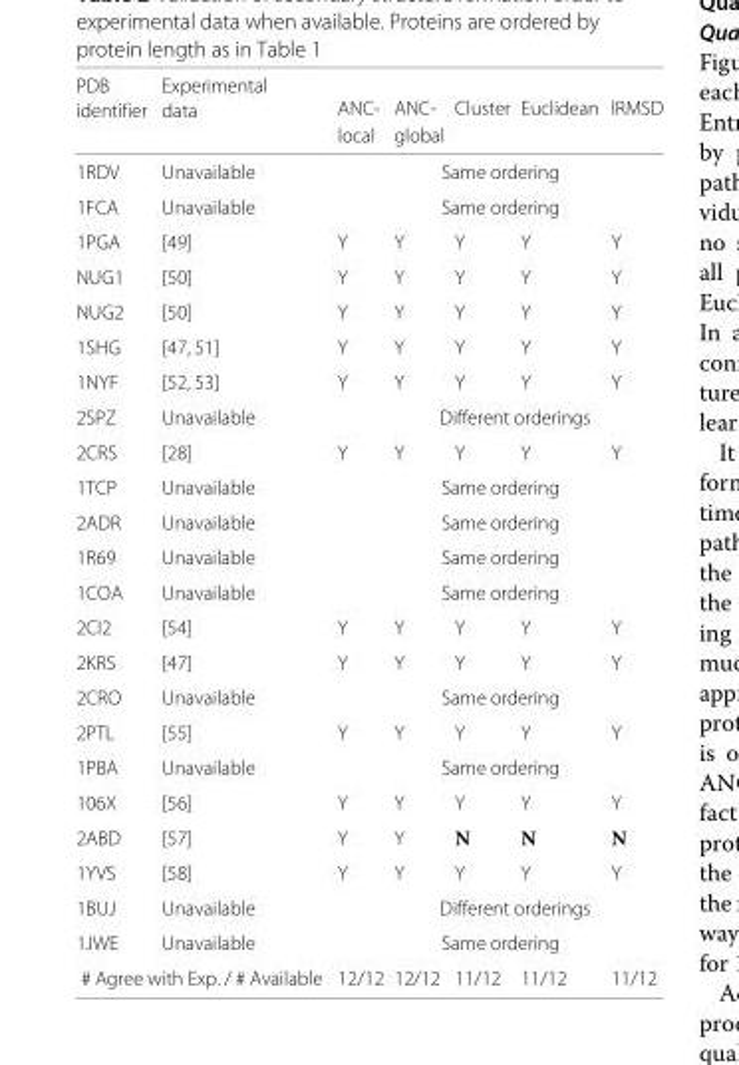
<table><thead><tr><td rowspan="3">PDB identifier</td><td rowspan="3">Experimental data</td><td rowspan="3">ANC- local</td><td rowspan="3">ANC- global</td><td rowspan="3">Cluster</td><td rowspan="3">Euclidean</td><td rowspan="3">lRMSD</td></tr><tr></tr><tr></tr></thead><tbody><tr><td>1RDV</td><td>Unavailable</td><td colspan="4">Same ordering</td><td></td></tr><tr><td>1FCA</td><td>Unavailable</td><td colspan="4">Same ordering</td><td></td></tr><tr><td>1PGA</td><td>[49]</td><td>Y</td><td>Y</td><td>Y</td><td>Y</td><td>Y</td></tr><tr><td>NUG1</td><td>[50]</td><td>Y</td><td>Y</td><td>Y</td><td>Y</td><td>Y</td></tr><tr><td>NUG2</td><td>[50]</td><td>Y</td><td>Y</td><td>Y</td><td>Y</td><td>Y</td></tr><tr><td>1SHG</td><td>[47, 51]</td><td>Y</td><td>Y</td><td>Y</td><td>Y</td><td>Y</td></tr><tr><td>1NYF</td><td>[52, 53]</td><td>Y</td><td>Y</td><td>Y</td><td>Y</td><td>Y</td></tr><tr><td>2SPZ</td><td>Unavailable</td><td></td><td colspan="3">Different orderings</td><td></td></tr><tr><td>2CRS</td><td>[28]</td><td>Y</td><td>Y</td><td>Y</td><td>Y</td><td>Y</td></tr><tr><td>1TCP</td><td>Unavailable</td><td colspan="4">Same ordering</td><td></td></tr><tr><td>2ADR</td><td>Unavailable</td><td colspan="4">Same ordering</td><td></td></tr><tr><td>1R69</td><td>Unavailable</td><td colspan="4">Same ordering</td><td></td></tr><tr><td>1COA</td><td>Unavailable</td><td colspan="4">Same ordering</td><td></td></tr><tr><td>2CI2</td><td>[54]</td><td>Y</td><td>Y</td><td>Y</td><td>Y</td><td>Y</td></tr><tr><td>2KRS</td><td>[47]</td><td>Y</td><td>Y</td><td>Y</td><td>Y</td><td>Y</td></tr><tr><td>2CRO</td><td>Unavailable</td><td colspan="4">Same ordering</td><td></td></tr><tr><td>2PTL</td><td>[55]</td><td>Y</td><td>Y</td><td>Y</td><td>Y</td><td>Y</td></tr><tr><td>1PBA</td><td>Unavailable</td><td colspan="4">Same ordering</td><td></td></tr><tr><td>106X</td><td>[56]</td><td>Y</td><td>Y</td><td>Y</td><td>Y</td><td>Y</td></tr><tr><td>2ABD</td><td>[57]</td><td>Y</td><td>Y</td><td>N</td><td>N</td><td>N</td></tr><tr><td>1YVS</td><td>[58]</td><td>Y</td><td>Y</td><td>Y</td><td>Y</td><td>Y</td></tr><tr><td>1BUJ</td><td>Unavailable</td><td></td><td colspan="3">Different orderings</td><td></td></tr><tr><td>1JWE</td><td>Unavailable</td><td colspan="4">Same ordering</td><td></td></tr><tr><td colspan="2"># Agree with Exp. / # Available</td><td>12/12</td><td>12/12</td><td>11/12</td><td>11/12</td><td>11/12</td></tr></tbody></table>